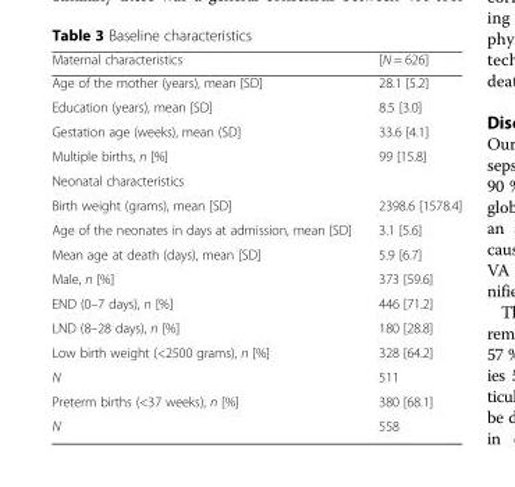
<table><thead><tr><td>Maternal characteristics</td><td>[N = 626]</td></tr></thead><tbody><tr><td>Age of the mother (years), mean [SD]</td><td>28.1 [5.2]</td></tr><tr><td>Education (years), mean [SD]</td><td>8.5 [3.0]</td></tr><tr><td>Gestation age (weeks), mean (SD]</td><td>33.6 [4.1]</td></tr><tr><td>Multiple births, n [%]</td><td>99 [15.8]</td></tr><tr><td colspan="2">Neonatal characteristics</td></tr><tr><td>Birth weight (grams), mean [SD]</td><td>2398.6 [1578.4]</td></tr><tr><td>Age of the neonates in days at admission, mean [SD]</td><td>3.1 [5.6]</td></tr><tr><td>Mean age at death (days), mean [SD]</td><td>5.9 [6.7]</td></tr><tr><td>Male, n [%]</td><td>373 [59.6]</td></tr><tr><td>END (0–7 days), n [%]</td><td>446 [71.2]</td></tr><tr><td>LND (8–28 days), n [%]</td><td>180 [28.8]</td></tr><tr><td>Low birth weight (&lt;2500 grams), n [%]</td><td>328 [64.2]</td></tr><tr><td>N</td><td>511</td></tr><tr><td>Preterm births (&lt;37 weeks), n [%]</td><td>380 [68.1]</td></tr><tr><td>N</td><td>558</td></tr></tbody></table>